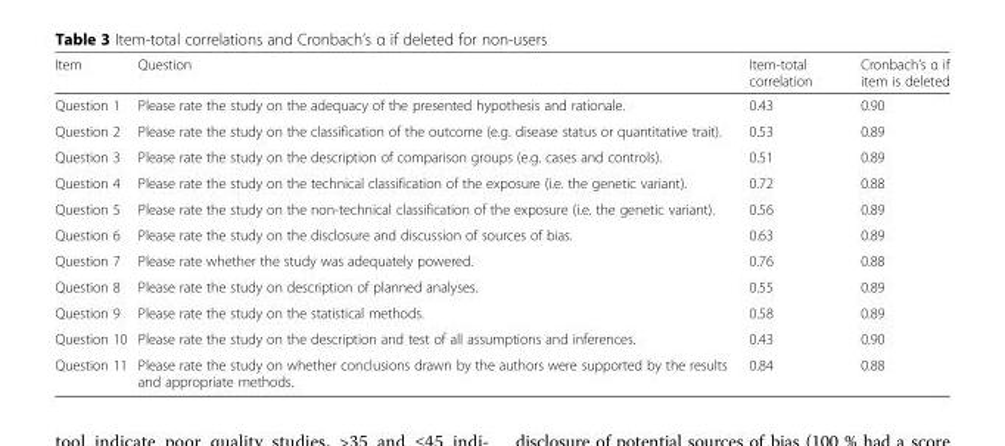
<table><thead><tr><td>Item</td><td>Question</td><td>Item-total correlation</td><td>Cronbach’s α if item is deleted</td></tr></thead><tbody><tr><td>Question 1</td><td>Please rate the study on the adequacy of the presented hypothesis and rationale.</td><td>0.43</td><td>0.90</td></tr><tr><td>Question 2</td><td>Please rate the study on the classification of the outcome (e.g. disease status or quantitative trait).</td><td>0.53</td><td>0.89</td></tr><tr><td>Question 3</td><td>Please rate the study on the description of comparison groups (e.g. cases and controls).</td><td>0.51</td><td>0.89</td></tr><tr><td>Question 4</td><td>Please rate the study on the technical classification of the exposure (i.e. the genetic variant).</td><td>0.72</td><td>0.88</td></tr><tr><td>Question 5</td><td>Please rate the study on the non-technical classification of the exposure (i.e. the genetic variant).</td><td>0.56</td><td>0.89</td></tr><tr><td>Question 6</td><td>Please rate the study on the disclosure and discussion of sources of bias.</td><td>0.63</td><td>0.89</td></tr><tr><td>Question 7</td><td>Please rate whether the study was adequately powered.</td><td>0.76</td><td>0.88</td></tr><tr><td>Question 8</td><td>Please rate the study on description of planned analyses.</td><td>0.55</td><td>0.89</td></tr><tr><td>Question 9</td><td>Please rate the study on the statistical methods.</td><td>0.58</td><td>0.89</td></tr><tr><td>Question 10</td><td>Please rate the study on the description and test of all assumptions and inferences.</td><td>0.43</td><td>0.90</td></tr><tr><td>Question 11</td><td>Please rate the study on whether conclusions drawn by the authors were supported by the results and appropriate methods.</td><td>0.84</td><td>0.88</td></tr></tbody></table>